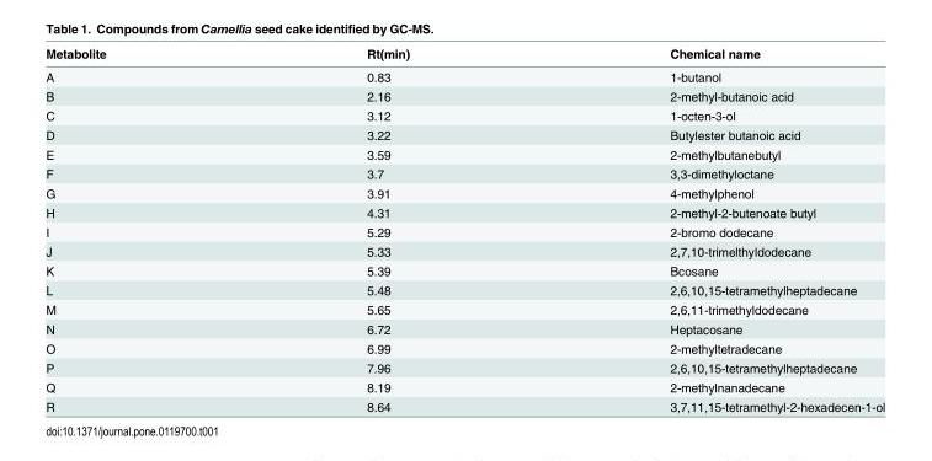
<table><thead><tr><td>Metabolite</td><td>Rt(min)</td><td>Chemical name</td></tr></thead><tbody><tr><td>A</td><td>0.83</td><td>1-butanol</td></tr><tr><td>B</td><td>2.16</td><td>2-methyl-butanoic acid</td></tr><tr><td>C</td><td>3.12</td><td>1-octen-3-ol</td></tr><tr><td>D</td><td>3.22</td><td>Butylester butanoic acid</td></tr><tr><td>E</td><td>3.59</td><td>2-methylbutanebutyl</td></tr><tr><td>F</td><td>3.7</td><td>3,3-dimethyloctane</td></tr><tr><td>G</td><td>3.91</td><td>4-methylphenol</td></tr><tr><td>H</td><td>4.31</td><td>2-methyl-2-butenoate butyl</td></tr><tr><td>I</td><td>5.29</td><td>2-bromo dodecane</td></tr><tr><td>J</td><td>5.33</td><td>2,7,10-trimelthyldodecane</td></tr><tr><td>K</td><td>5.39</td><td>Bcosane</td></tr><tr><td>L</td><td>5.48</td><td>2,6,10,15-tetramethylheptadecane</td></tr><tr><td>M</td><td>5.65</td><td>2,6,11-trimethyldodecane</td></tr><tr><td>N</td><td>6.72</td><td>Heptacosane</td></tr><tr><td>O</td><td>6.99</td><td>2-methyltetradecane</td></tr><tr><td>P</td><td>7.96</td><td>2,6,10,15-tetramethylheptadecane</td></tr><tr><td>Q</td><td>8.19</td><td>2-methylnanadecane</td></tr><tr><td>R</td><td>8.64</td><td>3,7,11,15-tetramethyl-2-hexadecen-1-ol</td></tr></tbody></table>